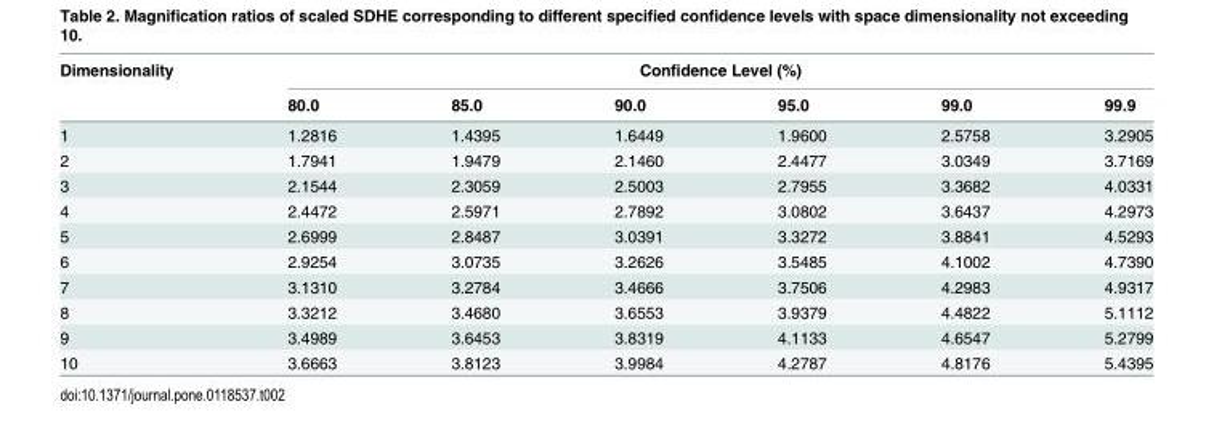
<table><thead><tr><td rowspan="2">Dimensionality</td><td colspan="6">Confidence Level (%)</td></tr><tr><td>80.0</td><td>85.0</td><td>90.0</td><td>95.0</td><td>99.0</td><td>99.9</td></tr></thead><tbody><tr><td>1</td><td>1.2816</td><td>1.4395</td><td>1.6449</td><td>1.9600</td><td>2.5758</td><td>3.2905</td></tr><tr><td>2</td><td>1.7941</td><td>1.9479</td><td>2.1460</td><td>2.4477</td><td>3.0349</td><td>3.7169</td></tr><tr><td>3</td><td>2.1544</td><td>2.3059</td><td>2.5003</td><td>2.7955</td><td>3.3682</td><td>4.0331</td></tr><tr><td>4</td><td>2.4472</td><td>2.5971</td><td>2.7892</td><td>3.0802</td><td>3.6437</td><td>4.2973</td></tr><tr><td>5</td><td>2.6999</td><td>2.8487</td><td>3.0391</td><td>3.3272</td><td>3.8841</td><td>4.5293</td></tr><tr><td>6</td><td>2.9254</td><td>3.0735</td><td>3.2626</td><td>3.5485</td><td>4.1002</td><td>4.7390</td></tr><tr><td>7</td><td>3.1310</td><td>3.2784</td><td>3.4666</td><td>3.7506</td><td>4.2983</td><td>4.9317</td></tr><tr><td>8</td><td>3.3212</td><td>3.4680</td><td>3.6553</td><td>3.9379</td><td>4.4822</td><td>5.1112</td></tr><tr><td>9</td><td>3.4989</td><td>3.6453</td><td>3.8319</td><td>4.1133</td><td>4.6547</td><td>5.2799</td></tr><tr><td>10</td><td>3.6663</td><td>3.8123</td><td>3.9984</td><td>4.2787</td><td>4.8176</td><td>5.4395</td></tr></tbody></table>